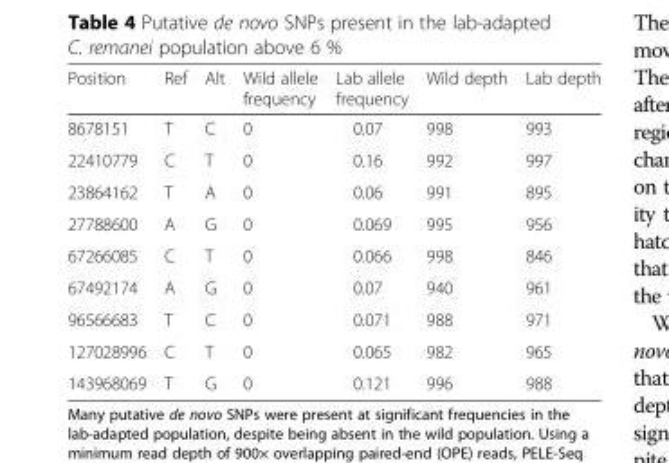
<table><thead><tr><td>Position</td><td>Ref</td><td>Alt</td><td>Wild allele frequency</td><td>Lab allele frequency</td><td>Wild depth</td><td>Lab depth</td></tr></thead><tbody><tr><td>8678151</td><td>T</td><td>C</td><td>0</td><td>0.07</td><td>998</td><td>993</td></tr><tr><td>22410779</td><td>C</td><td>T</td><td>0</td><td>0.16</td><td>992</td><td>997</td></tr><tr><td>23864162</td><td>T</td><td>A</td><td>0</td><td>0.06</td><td>991</td><td>895</td></tr><tr><td>27788600</td><td>A</td><td>G</td><td>0</td><td>0.069</td><td>995</td><td>956</td></tr><tr><td>67266085</td><td>C</td><td>T</td><td>0</td><td>0.066</td><td>998</td><td>846</td></tr><tr><td>67492174</td><td>A</td><td>G</td><td>0</td><td>0.07</td><td>940</td><td>961</td></tr><tr><td>96566683</td><td>T</td><td>C</td><td>0</td><td>0.071</td><td>988</td><td>971</td></tr><tr><td>127028996</td><td>C</td><td>T</td><td>0</td><td>0.065</td><td>982</td><td>965</td></tr><tr><td>143968069</td><td>T</td><td>G</td><td>0</td><td>0.121</td><td>996</td><td>988</td></tr></tbody></table>